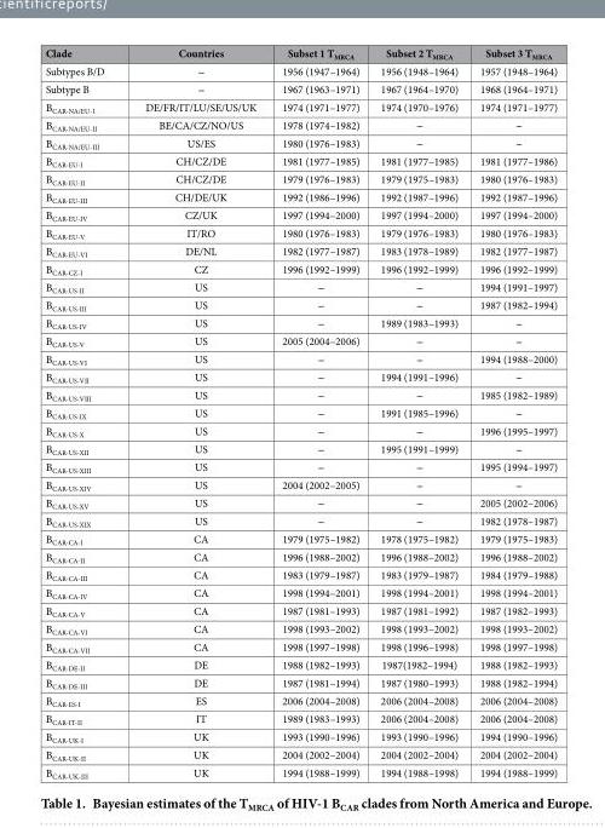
<table><thead><tr><td>Clade</td><td>Countries</td><td>Subset 1 T<sub>MRCA</sub></td><td>Subset 2 T<sub>MRCA</sub></td><td>Subset 3 T<sub>MRCA</sub></td></tr></thead><tbody><tr><td>Subtypes B/D</td><td>‒</td><td>1956 (1947–1964)</td><td>1956 (1948–1964)</td><td>1957 (1948–1964)</td></tr><tr><td>Subtype B</td><td>‒</td><td>1967 (1963–1971)</td><td>1967 (1964–1970)</td><td>1968 (1964–1971)</td></tr><tr><td>B<sub>CAR-NA/EU-I</sub></td><td>DE/FR/IT/LU/SE/US/UK</td><td>1974 (1971–1977)</td><td>1974 (1970–1976)</td><td>1974 (1971–1977)</td></tr><tr><td>B<sub>CAR-NA/EU-II</sub></td><td>BE/CA/CZ/NO/US</td><td>1978 (1974–1982)</td><td>‒</td><td>‒</td></tr><tr><td>B<sub>CAR-NA/EU-III</sub></td><td>US/ES</td><td>1980 (1976–1983)</td><td>‒</td><td>‒</td></tr><tr><td>B<sub>CAR-EU-I</sub></td><td>CH/CZ/DE</td><td>1981 (1977–1985)</td><td>1981 (1977–1985)</td><td>1981 (1977–1986)</td></tr><tr><td>B<sub>CAR-EU-II</sub></td><td>CH/CZ/DE</td><td>1979 (1976–1983)</td><td>1979 (1975–1983)</td><td>1980 (1976–1983)</td></tr><tr><td>B<sub>CAR-EU-III</sub></td><td>CH/DE/UK</td><td>1992 (1986–1996)</td><td>1992 (1987–1996)</td><td>1992 (1987–1996)</td></tr><tr><td>B<sub>CAR-EU-IV</sub></td><td>CZ/UK</td><td>1997 (1994–2000)</td><td>1997 (1994–2000)</td><td>1997 (1994–2000)</td></tr><tr><td>B<sub>CAR-EU-V</sub></td><td>IT/RO</td><td>1980 (1976–1983)</td><td>1979 (1976–1983)</td><td>1980 (1976–1983)</td></tr><tr><td>B<sub>CAR-EU-VI</sub></td><td>DE/NL</td><td>1982 (1977–1987)</td><td>1983 (1978–1989)</td><td>1982 (1977–1987)</td></tr><tr><td>B<sub>CAR-CZ-I</sub></td><td>CZ</td><td>1996 (1992–1999)</td><td>1996 (1992–1999)</td><td>1996 (1992–1999)</td></tr><tr><td>B<sub>CAR-US-II</sub></td><td>US</td><td>‒</td><td>‒</td><td>1994 (1991–1997)</td></tr><tr><td>B<sub>CAR-US-III</sub></td><td>US</td><td>‒</td><td>‒</td><td>1987 (1982–1994)</td></tr><tr><td>B<sub>CAR-US-IV</sub></td><td>US</td><td>‒</td><td>1989 (1983–1993)</td><td>‒</td></tr><tr><td>B<sub>CAR-US-V</sub></td><td>US</td><td>2005 (2004–2006)</td><td>‒</td><td>‒</td></tr><tr><td>B<sub>CAR-US-VI</sub></td><td>US</td><td>‒</td><td>‒</td><td>1994 (1988–2000)</td></tr><tr><td>B<sub>CAR-US-VII</sub></td><td>US</td><td>‒</td><td>1994 (1991–1996)</td><td>‒</td></tr><tr><td>B<sub>CAR-US-VIII</sub></td><td>US</td><td>‒</td><td>‒</td><td>1985 (1982–1989)</td></tr><tr><td>B<sub>CAR-US-IX</sub></td><td>US</td><td>‒</td><td>1991 (1985–1996)</td><td>‒</td></tr><tr><td>B<sub>CAR-US-X</sub></td><td>US</td><td>‒</td><td>‒</td><td>1996 (1995–1997)</td></tr><tr><td>B<sub>CAR-US-XII</sub></td><td>US</td><td>‒</td><td>1995 (1991–1999)</td><td>‒</td></tr><tr><td>B<sub>CAR-US-XIII</sub></td><td>US</td><td>‒</td><td>‒</td><td>1995 (1994–1997)</td></tr><tr><td>B<sub>CAR-US-XIV</sub></td><td>US</td><td>2004 (2002–2005)</td><td>‒</td><td>‒</td></tr><tr><td>B<sub>CAR-US-XV</sub></td><td>US</td><td>‒</td><td>‒</td><td>2005 (2002–2006)</td></tr><tr><td>B<sub>CAR-US-XIX</sub></td><td>US</td><td>‒</td><td>‒</td><td>1982 (1978–1987)</td></tr><tr><td>B<sub>CAR-CA-I</sub></td><td>CA</td><td>1979 (1975–1982)</td><td>1978 (1975–1982)</td><td>1979 (1975–1983)</td></tr><tr><td>B<sub>CAR-CA-II</sub></td><td>CA</td><td>1996 (1988–2002)</td><td>1996 (1988–2002)</td><td>1996 (1988–2002)</td></tr><tr><td>B<sub>CAR-CA-III</sub></td><td>CA</td><td>1983 (1979–1987)</td><td>1983 (1979–1987)</td><td>1984 (1979–1988)</td></tr><tr><td>B<sub>CAR-CA-IV</sub></td><td>CA</td><td>1998 (1994–2001)</td><td>1998 (1994–2001)</td><td>1998 (1994–2001)</td></tr><tr><td>B<sub>CAR-CA-V</sub></td><td>CA</td><td>1987 (1981–1993)</td><td>1987 (1981–1992)</td><td>1987 (1982–1993)</td></tr><tr><td>B<sub>CAR-CA-VI</sub></td><td>CA</td><td>1998 (1993–2002)</td><td>1998 (1993–2002)</td><td>1998 (1993–2002)</td></tr><tr><td>B<sub>CAR-CA-VII</sub></td><td>CA</td><td>1998 (1997–1998)</td><td>1998 (1996–1998)</td><td>1998 (1997–1998)</td></tr><tr><td>B<sub>CAR-DE-II</sub></td><td>DE</td><td>1988 (1982–1993)</td><td>1987(1982–1994)</td><td>1988 (1982–1993)</td></tr><tr><td>B<sub>CAR-DE-III</sub></td><td>DE</td><td>1987 (1981–1994)</td><td>1987 (1980–1993)</td><td>1988 (1982–1994)</td></tr><tr><td>B<sub>CAR-ES-I</sub></td><td>ES</td><td>2006 (2004–2008)</td><td>2006 (2004–2008)</td><td>2006 (2004–2008)</td></tr><tr><td>B<sub>CAR-IT-II</sub></td><td>IT</td><td>1989 (1983–1993)</td><td>2006 (2004–2008)</td><td>2006 (2004–2008)</td></tr><tr><td>B<sub>CAR-UK-I</sub></td><td>UK</td><td>1993 (1990–1996)</td><td>1993 (1990–1996)</td><td>1994 (1990–1996)</td></tr><tr><td>B<sub>CAR-UK-II</sub></td><td>UK</td><td>2004 (2002–2004)</td><td>2004 (2002–2004)</td><td>2004 (2002–2004)</td></tr><tr><td>B<sub>CAR-UK-III</sub></td><td>UK</td><td>1994 (1988–1999)</td><td>1994 (1988–1998)</td><td>1994 (1988–1999)</td></tr></tbody></table>